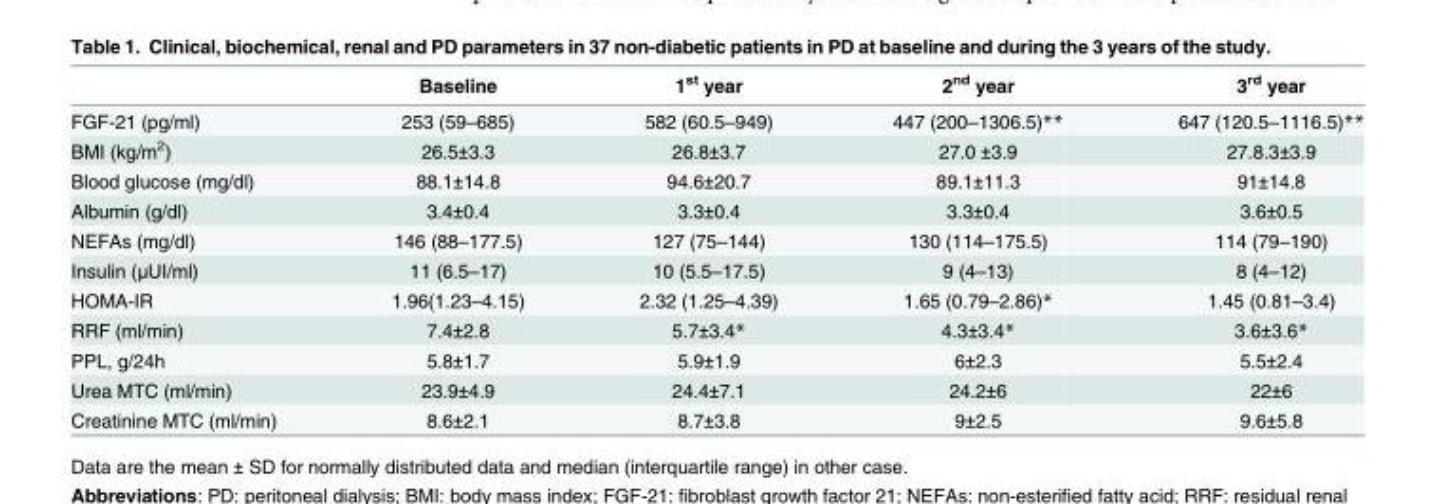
<table><thead><tr><td></td><td>Baseline</td><td>1<sup>st</sup> year</td><td>2<sup>nd</sup> year</td><td>3<sup>rd</sup> year</td></tr></thead><tbody><tr><td>FGF-21 (pg/ml)</td><td>253 (59–685)</td><td>582 (60.5–949)</td><td>447 (200–1306.5)**</td><td>647 (120.5–1116.5)**</td></tr><tr><td>BMI (kg/m<sup>2</sup>)</td><td>26.5±3.3</td><td>26.8±3.7</td><td>27.0 ±3.9</td><td>27.8.3±3.9</td></tr><tr><td>Blood glucose (mg/dl)</td><td>88.1±14.8</td><td>94.6±20.7</td><td>89.1±11.3</td><td>91±14.8</td></tr><tr><td>Albumin (g/dl)</td><td>3.4±0.4</td><td>3.3±0.4</td><td>3.3±0.4</td><td>3.6±0.5</td></tr><tr><td>NEFAs (mg/dl)</td><td>146 (88–177.5)</td><td>127 (75–144)</td><td>130 (114–175.5)</td><td>114 (79–190)</td></tr><tr><td>Insulin (μUI/ml)</td><td>11 (6.5–17)</td><td>10 (5.5–17.5)</td><td>9 (4–13)</td><td>8 (4–12)</td></tr><tr><td>HOMA-IR</td><td>1.96(1.23–4.15)</td><td>2.32 (1.25–4.39)</td><td>1.65 (0.79–2.86)*</td><td>1.45 (0.81–3.4)</td></tr><tr><td>RRF (ml/min)</td><td>7.4±2.8</td><td>5.7±3.4*</td><td>4.3±3.4*</td><td>3.6±3.6*</td></tr><tr><td>PPL, g/24h</td><td>5.8±1.7</td><td>5.9±1.9</td><td>6±2.3</td><td>5.5±2.4</td></tr><tr><td>Urea MTC (ml/min)</td><td>23.9±4.9</td><td>24.4±7.1</td><td>24.2±6</td><td>22±6</td></tr><tr><td>Creatinine MTC (ml/min)</td><td>8.6±2.1</td><td>8.7±3.8</td><td>9±2.5</td><td>9.6±5.8</td></tr></tbody></table>